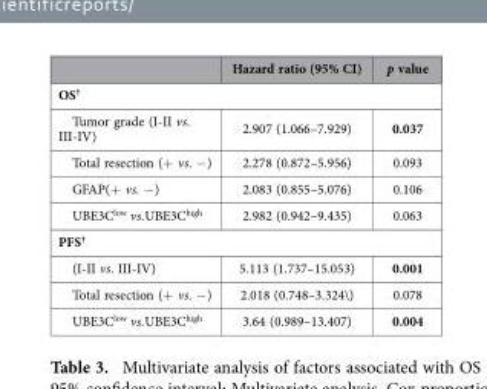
<table><thead><tr><td></td><td>Hazard ratio (95% CI)</td><td>p value</td></tr></thead><tbody><tr><td colspan="3">OS<sup>†</sup></td></tr><tr><td>Tumor grade (I-II vs. III-IV)</td><td>2.907 (1.066–7.929)</td><td>0.037</td></tr><tr><td>Total resection (+ vs. − )</td><td>2.278 (0.872–5.956)</td><td>0.093</td></tr><tr><td>GFAP(+ vs. − )</td><td>2.083 (0.855–5.076)</td><td>0.106</td></tr><tr><td>UBE3C<sup>low</sup> vs.UBE3C<sup>high</sup></td><td>2.982 (0.942–9.435)</td><td>0.063</td></tr><tr><td colspan="3">PFS<sup>†</sup></td></tr><tr><td>(I-II vs. III-IV)</td><td>5.113 (1.737–15.053)</td><td>0.001</td></tr><tr><td>Total resection (+ vs. − )</td><td>2.018 (0.748–3.324\)</td><td>0.078</td></tr><tr><td>UBE3C<sup>low</sup> vs.UBE3C<sup>high</sup></td><td>3.64 (0.989–13.407)</td><td>0.004</td></tr></tbody></table>